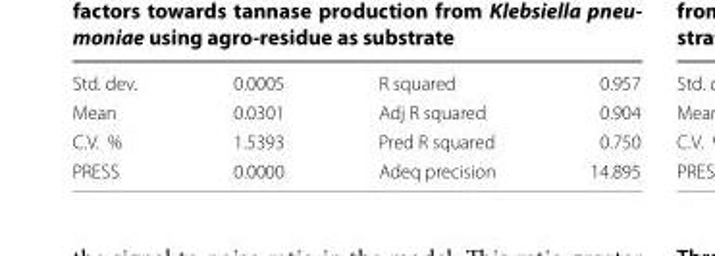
<table><tbody><tr><td>Std. dev.</td><td>0.0005</td><td>R squared</td><td>0.957</td></tr><tr><td>Mean</td><td>0.0301</td><td>Adj R squared</td><td>0.904</td></tr><tr><td>C.V. %</td><td>1.5393</td><td>Pred R squared</td><td>0.750</td></tr><tr><td>PRESS</td><td>0.0000</td><td>Adeq precision</td><td>14.895</td></tr></tbody></table>